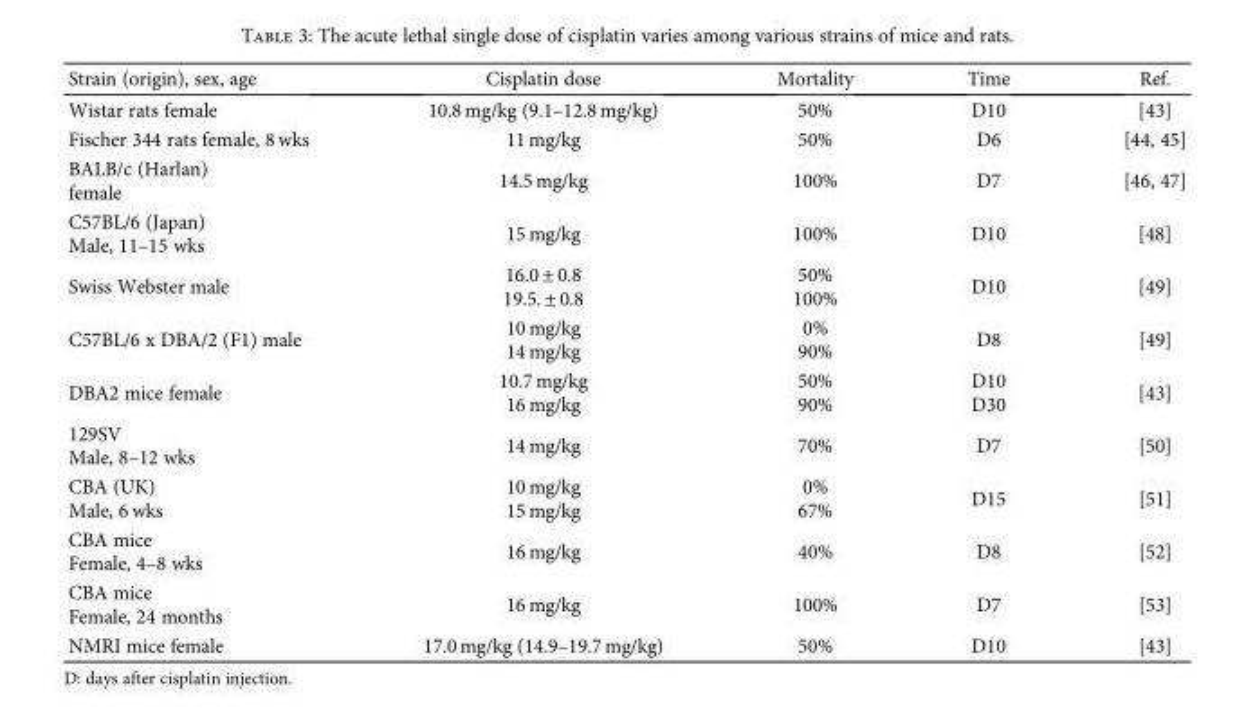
<table><thead><tr><td>Strain (origin), sex, age</td><td>Cisplatin dose</td><td>Mortality</td><td>Time</td><td>Ref.</td></tr></thead><tbody><tr><td>Wistar rats female</td><td>10.8 mg/kg (9.1–12.8 mg/kg)</td><td>50%</td><td>D10</td><td>[43]</td></tr><tr><td>Fischer 344 rats female, 8 wks</td><td>11 mg/kg</td><td>50%</td><td>D6</td><td>[44, 45]</td></tr><tr><td>BALB/c (Harlan) female</td><td>14.5 mg/kg</td><td>100%</td><td>D7</td><td>[46, 47]</td></tr><tr><td>C57BL/6 (Japan) Male, 11–15 wks</td><td>15 mg/kg</td><td>100%</td><td>D10</td><td>[48]</td></tr><tr><td>Swiss Webster male</td><td>16.0 ± 0.8 19.5. ± 0.8</td><td>50% 100%</td><td>D10</td><td>[49]</td></tr><tr><td>C57BL/6 x DBA/2 (F1) male</td><td>10 mg/kg 14 mg/kg</td><td>0% 90%</td><td>D8</td><td>[49]</td></tr><tr><td>DBA2 mice female</td><td>10.7 mg/kg 16 mg/kg</td><td>50% 90%</td><td>D10 D30</td><td>[43]</td></tr><tr><td>129SV Male, 8–12 wks</td><td>14 mg/kg</td><td>70%</td><td>D7</td><td>[50]</td></tr><tr><td>CBA (UK) Male, 6 wks</td><td>10 mg/kg 15 mg/kg</td><td>0% 67%</td><td>D15</td><td>[51]</td></tr><tr><td>CBA mice Female, 4–8 wks</td><td>16 mg/kg</td><td>40%</td><td>D8</td><td>[52]</td></tr><tr><td>CBA mice Female, 24 months</td><td>16 mg/kg</td><td>100%</td><td>D7</td><td>[53]</td></tr><tr><td>NMRI mice female</td><td>17.0 mg/kg (14.9–19.7 mg/kg)</td><td>50%</td><td>D10</td><td>[43]</td></tr></tbody></table>